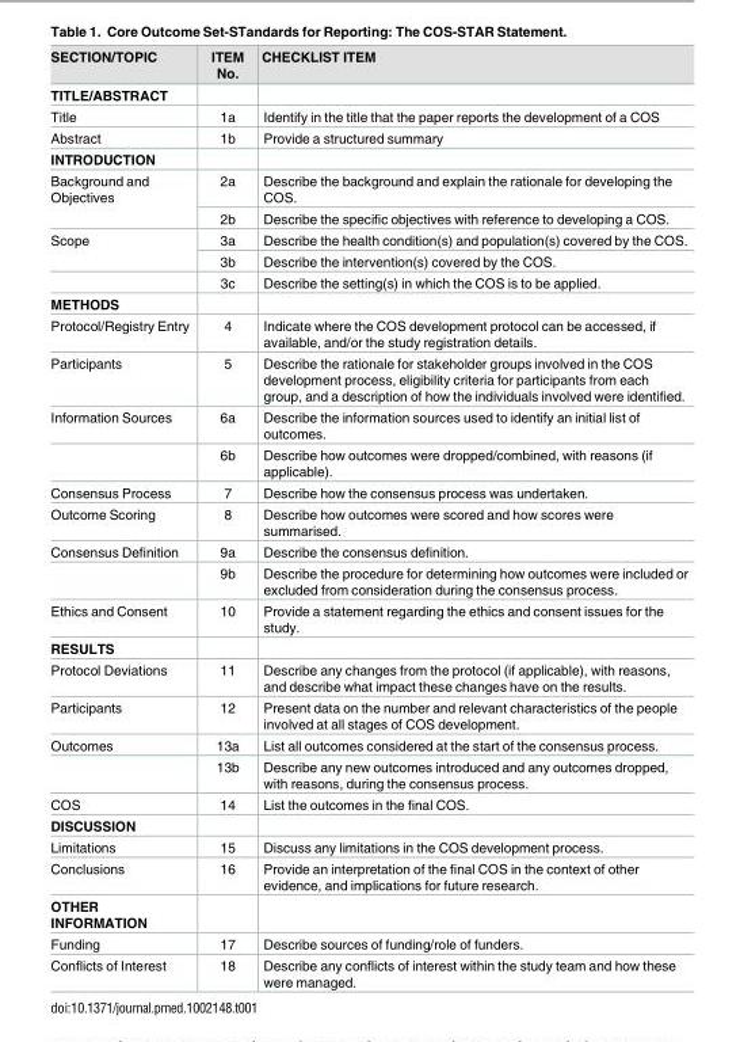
<table><thead><tr><td>SECTION/TOPIC</td><td>ITEM No.</td><td>CHECKLIST ITEM</td></tr></thead><tbody><tr><td colspan="3">TITLE/ABSTRACT</td></tr><tr><td>Title</td><td>1a</td><td>Identify in the title that the paper reports the development of a COS</td></tr><tr><td>Abstract</td><td>1b</td><td>Provide a structured summary</td></tr><tr><td colspan="3">INTRODUCTION</td></tr><tr><td rowspan="2">Background and Objectives</td><td>2a</td><td>Describe the background and explain the rationale for developing the COS.</td></tr><tr><td>2b</td><td>Describe the specific objectives with reference to developing a COS.</td></tr><tr><td rowspan="3">Scope</td><td>3a</td><td>Describe the health condition(s) and population(s) covered by the COS.</td></tr><tr><td>3b</td><td>Describe the intervention(s) covered by the COS.</td></tr><tr><td>3c</td><td>Describe the setting(s) in which the COS is to be applied.</td></tr><tr><td colspan="3">METHODS</td></tr><tr><td>Protocol/Registry Entry</td><td>4</td><td>Indicate where the COS development protocol can be accessed, if available, and/or the study registration details.</td></tr><tr><td>Participants</td><td>5</td><td>Describe the rationale for stakeholder groups involved in the COS development process, eligibility criteria for participants from each group, and a description of how the individuals involved were identified.</td></tr><tr><td rowspan="2">Information Sources</td><td>6a</td><td>Describe the information sources used to identify an initial list of outcomes.</td></tr><tr><td>6b</td><td>Describe how outcomes were dropped/combined, with reasons (if applicable).</td></tr><tr><td>Consensus Process</td><td>7</td><td>Describe how the consensus process was undertaken.</td></tr><tr><td>Outcome Scoring</td><td>8</td><td>Describe how outcomes were scored and how scores were summarised.</td></tr><tr><td rowspan="2">Consensus Definition</td><td>9a</td><td>Describe the consensus definition.</td></tr><tr><td>9b</td><td>Describe the procedure for determining how outcomes were included or excluded from consideration during the consensus process.</td></tr><tr><td>Ethics and Consent</td><td>10</td><td>Provide a statement regarding the ethics and consent issues for the study.</td></tr><tr><td colspan="3">RESULTS</td></tr><tr><td>Protocol Deviations</td><td>11</td><td>Describe any changes from the protocol (if applicable), with reasons, and describe what impact these changes have on the results.</td></tr><tr><td>Participants</td><td>12</td><td>Present data on the number and relevant characteristics of the people involved at all stages of COS development.</td></tr><tr><td rowspan="2">Outcomes</td><td>13a</td><td>List all outcomes considered at the start of the consensus process.</td></tr><tr><td>13b</td><td>Describe any new outcomes introduced and any outcomes dropped, with reasons, during the consensus process.</td></tr><tr><td>COS</td><td>14</td><td>List the outcomes in the final COS.</td></tr><tr><td colspan="3">DISCUSSION</td></tr><tr><td>Limitations</td><td>15</td><td>Discuss any limitations in the COS development process.</td></tr><tr><td>Conclusions</td><td>16</td><td>Provide an interpretation of the final COS in the context of other evidence, and implications for future research.</td></tr><tr><td colspan="3">OTHER INFORMATION</td></tr><tr><td>Funding</td><td>17</td><td>Describe sources of funding/role of funders.</td></tr><tr><td>Conflicts of Interest</td><td>18</td><td>Describe any conflicts of interest within the study team and how these were managed.</td></tr></tbody></table>